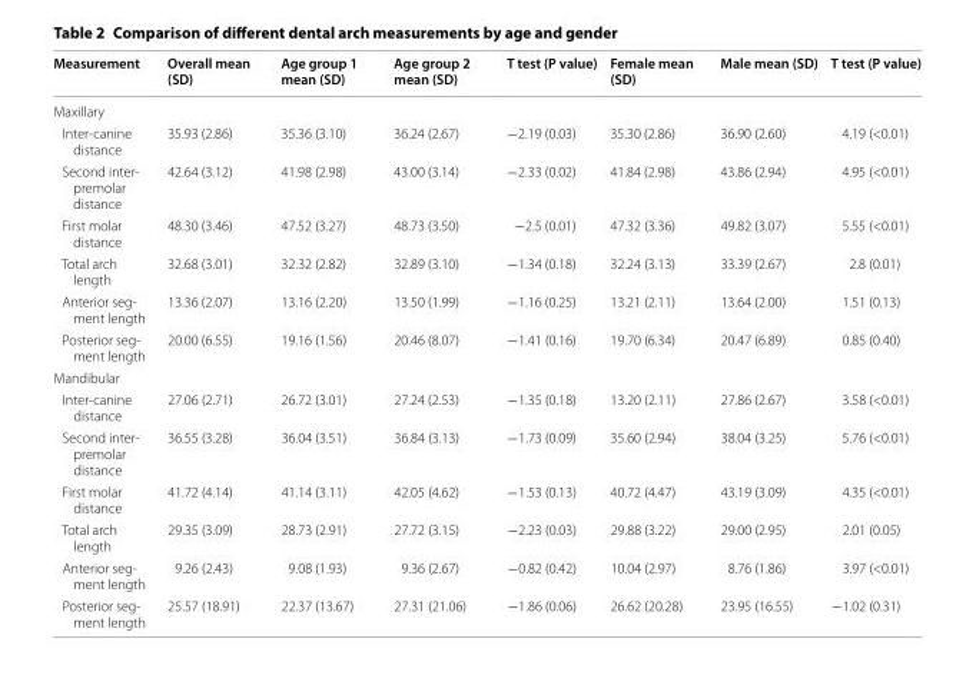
<table><thead><tr><td>Measurement</td><td>Overall mean (SD)</td><td>Age group 1 mean (SD)</td><td>Age group 2 mean (SD)</td><td>T test (P value)</td><td>Female mean (SD)</td><td>Male mean (SD)</td><td>T test (P value)</td></tr></thead><tbody><tr><td colspan="8">Maxillary</td></tr><tr><td>Inter-canine distance</td><td>35.93 (2.86)</td><td>35.36 (3.10)</td><td>36.24 (2.67)</td><td>−2.19 (0.03)</td><td>35.30 (2.86)</td><td>36.90 (2.60)</td><td>4.19 (&lt;0.01)</td></tr><tr><td>Second inter- premolar distance</td><td>42.64 (3.12)</td><td>41.98 (2.98)</td><td>43.00 (3.14)</td><td>−2.33 (0.02)</td><td>41.84 (2.98)</td><td>43.86 (2.94)</td><td>4.95 (&lt;0.01)</td></tr><tr><td>First molar distance</td><td>48.30 (3.46)</td><td>47.52 (3.27)</td><td>48.73 (3.50)</td><td>−2.5 (0.01)</td><td>47.32 (3.36)</td><td>49.82 (3.07)</td><td>5.55 (&lt;0.01)</td></tr><tr><td>Total arch length</td><td>32.68 (3.01)</td><td>32.32 (2.82)</td><td>32.89 (3.10)</td><td>−1.34 (0.18)</td><td>32.24 (3.13)</td><td>33.39 (2.67)</td><td>2.8 (0.01)</td></tr><tr><td>Anterior seg- ment length</td><td>13.36 (2.07)</td><td>13.16 (2.20)</td><td>13.50 (1.99)</td><td>−1.16 (0.25)</td><td>13.21 (2.11)</td><td>13.64 (2.00)</td><td>1.51 (0.13)</td></tr><tr><td>Posterior seg- ment length</td><td>20.00 (6.55)</td><td>19.16 (1.56)</td><td>20.46 (8.07)</td><td>−1.41 (0.16)</td><td>19.70 (6.34)</td><td>20.47 (6.89)</td><td>0.85 (0.40)</td></tr><tr><td colspan="8">Mandibular</td></tr><tr><td>Inter-canine distance</td><td>27.06 (2.71)</td><td>26.72 (3.01)</td><td>27.24 (2.53)</td><td>−1.35 (0.18)</td><td>13.20 (2.11)</td><td>27.86 (2.67)</td><td>3.58 (&lt;0.01)</td></tr><tr><td>Second inter- premolar distance</td><td>36.55 (3.28)</td><td>36.04 (3.51)</td><td>36.84 (3.13)</td><td>−1.73 (0.09)</td><td>35.60 (2.94)</td><td>38.04 (3.25)</td><td>5.76 (&lt;0.01)</td></tr><tr><td>First molar distance</td><td>41.72 (4.14)</td><td>41.14 (3.11)</td><td>42.05 (4.62)</td><td>−1.53 (0.13)</td><td>40.72 (4.47)</td><td>43.19 (3.09)</td><td>4.35 (&lt;0.01)</td></tr><tr><td>Total arch length</td><td>29.35 (3.09)</td><td>28.73 (2.91)</td><td>27.72 (3.15)</td><td>−2.23 (0.03)</td><td>29.88 (3.22)</td><td>29.00 (2.95)</td><td>2.01 (0.05)</td></tr><tr><td>Anterior seg- ment length</td><td>9.26 (2.43)</td><td>9.08 (1.93)</td><td>9.36 (2.67)</td><td>−0.82 (0.42)</td><td>10.04 (2.97)</td><td>8.76 (1.86)</td><td>3.97 (&lt;0.01)</td></tr><tr><td>Posterior seg- ment length</td><td>25.57 (18.91)</td><td>22.37 (13.67)</td><td>27.31 (21.06)</td><td>−1.86 (0.06)</td><td>26.62 (20.28)</td><td>23.95 (16.55)</td><td>−1.02 (0.31)</td></tr></tbody></table>